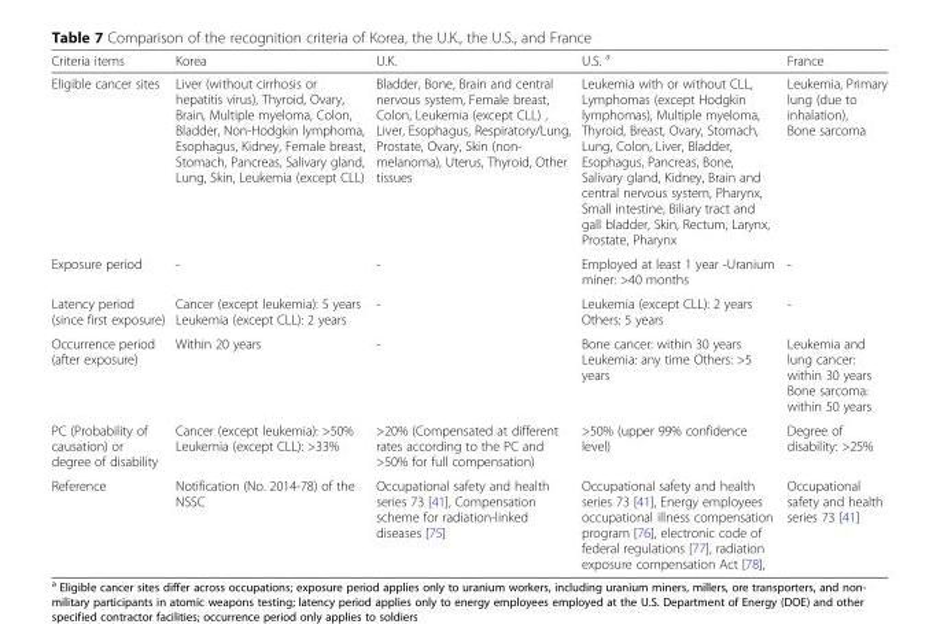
<table><thead><tr><td>Criteria items</td><td>Korea</td><td>U.K.</td><td>U.S. <sup>a</sup></td><td>France</td></tr></thead><tbody><tr><td>Eligible cancer sites</td><td>Liver (without cirrhosis or hepatitis virus), Thyroid, Ovary, Brain, Multiple myeloma, Colon, Bladder, Non-Hodgkin lymphoma, Esophagus, Kidney, Female breast, Stomach, Pancreas, Salivary gland, Lung, Skin, Leukemia (except CLL)</td><td>Bladder, Bone, Brain and central nervous system, Female breast, Colon, Leukemia (except CLL) , Liver, Esophagus, Respiratory/Lung, Prostate, Ovary, Skin (non- melanoma), Uterus, Thyroid, Other tissues</td><td>Leukemia with or without CLL, Lymphomas (except Hodgkin lymphomas), Multiple myeloma, Thyroid, Breast, Ovary, Stomach, Lung, Colon, Liver, Bladder, Esophagus, Pancreas, Bone, Salivary gland, Kidney, Brain and central nervous system, Pharynx, Small intestine, Biliary tract and gall bladder, Skin, Rectum, Larynx, Prostate, Pharynx</td><td>Leukemia, Primary lung (due to inhalation), Bone sarcoma</td></tr><tr><td>Exposure period</td><td>-</td><td>-</td><td>Employed at least 1 year -Uranium miner: &gt;40 months</td><td>-</td></tr><tr><td>Latency period (since first exposure)</td><td>Cancer (except leukemia): 5 years Leukemia (except CLL): 2 years</td><td>-</td><td>Leukemia (except CLL): 2 years Others: 5 years</td><td>-</td></tr><tr><td>Occurrence period (after exposure)</td><td>Within 20 years</td><td>-</td><td>Bone cancer: within 30 years Leukemia: any time Others: &gt;5 years</td><td>Leukemia and lung cancer: within 30 years Bone sarcoma: within 50 years</td></tr><tr><td>PC (Probability of causation) or degree of disability</td><td>Cancer (except leukemia): &gt;50% Leukemia (except CLL): &gt;33%</td><td>&gt;20% (Compensated at different rates according to the PC and &gt;50% for full compensation)</td><td>&gt;50% (upper 99% confidence level)</td><td>Degree of disability: &gt;25%</td></tr><tr><td>Reference</td><td>Notification (No. 2014-78) of the NSSC</td><td>Occupational safety and health series 73 [41], Compensation scheme for radiation-linked diseases [75]</td><td>Occupational safety and health series 73 [41], Energy employees occupational illness compensation program [76], electronic code of federal regulations [77], radiation exposure compensation Act [78],</td><td>Occupational safety and health series 73 [41]</td></tr></tbody></table>